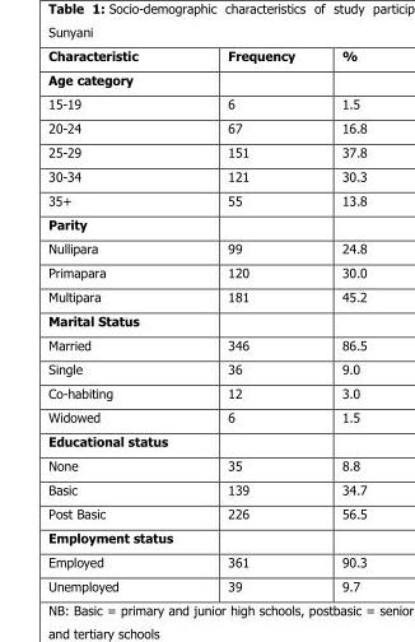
<table><thead><tr><td>Characteristic</td><td>Frequency</td><td>%</td></tr></thead><tbody><tr><td colspan="3">Age category</td></tr><tr><td>15-19</td><td>6</td><td>1.5</td></tr><tr><td>20-24</td><td>67</td><td>16.8</td></tr><tr><td>25-29</td><td>151</td><td>37.8</td></tr><tr><td>30-34</td><td>121</td><td>30.3</td></tr><tr><td>35+</td><td>55</td><td>13.8</td></tr><tr><td colspan="3">Parity</td></tr><tr><td>Nullipara</td><td>99</td><td>24.8</td></tr><tr><td>Primapara</td><td>120</td><td>30.0</td></tr><tr><td>Multipara</td><td>181</td><td>45.2</td></tr><tr><td colspan="3">Marital Status</td></tr><tr><td>Married</td><td>346</td><td>86.5</td></tr><tr><td>Single</td><td>36</td><td>9.0</td></tr><tr><td>Co-habiting</td><td>12</td><td>3.0</td></tr><tr><td>Widowed</td><td>6</td><td>1.5</td></tr><tr><td colspan="3">Educational status</td></tr><tr><td>None</td><td>35</td><td>8.8</td></tr><tr><td>Basic</td><td>139</td><td>34.7</td></tr><tr><td>Post Basic</td><td>226</td><td>56.5</td></tr><tr><td colspan="3">Employment status</td></tr><tr><td>Employed</td><td>361</td><td>90.3</td></tr><tr><td>Unemployed</td><td>39</td><td>9.7</td></tr></tbody></table>